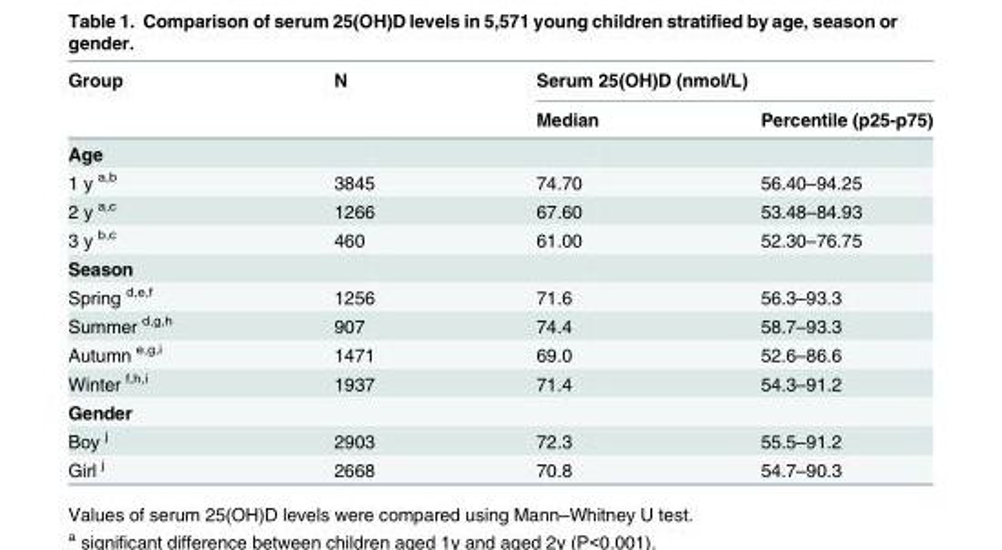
<table><thead><tr><td rowspan="2">Group</td><td rowspan="2">N</td><td colspan="2">Serum 25(OH)D (nmol/L)</td></tr><tr><td>Median</td><td>Percentile (p25-p75)</td></tr></thead><tbody><tr><td colspan="4">Age</td></tr><tr><td>1 y <sup>a,b</sup></td><td>3845</td><td>74.70</td><td>56.40–94.25</td></tr><tr><td>2 y <sup>a,c</sup></td><td>1266</td><td>67.60</td><td>53.48–84.93</td></tr><tr><td>3 y <sup>b,c</sup></td><td>460</td><td>61.00</td><td>52.30–76.75</td></tr><tr><td colspan="4">Season</td></tr><tr><td>Spring <sup>d,e,f</sup></td><td>1256</td><td>71.6</td><td>56.3–93.3</td></tr><tr><td>Summer <sup>d,g,h</sup></td><td>907</td><td>74.4</td><td>58.7–93.3</td></tr><tr><td>Autumn <sup>e,g,i</sup></td><td>1471</td><td>69.0</td><td>52.6–86.6</td></tr><tr><td>Winter <sup>f,h,i</sup></td><td>1937</td><td>71.4</td><td>54.3–91.2</td></tr><tr><td colspan="4">Gender</td></tr><tr><td>Boy <sup>j</sup></td><td>2903</td><td>72.3</td><td>55.5–91.2</td></tr><tr><td>Girl <sup>j</sup></td><td>2668</td><td>70.8</td><td>54.7–90.3</td></tr></tbody></table>